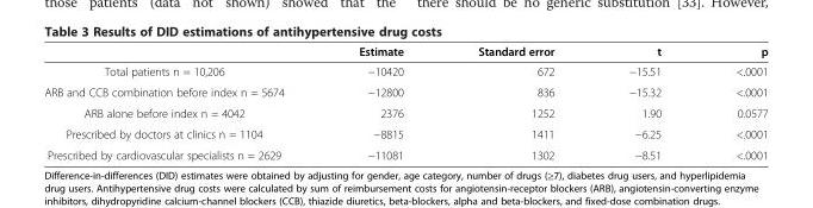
<table><thead><tr><td></td><td>Estimate</td><td>Standard error</td><td>t</td><td>p</td></tr></thead><tbody><tr><td>Total patients n = 10,206</td><td>−10420</td><td>672</td><td>−15.51</td><td>&lt;.0001</td></tr><tr><td>ARB and CCB combination before index n = 5674</td><td>−12800</td><td>836</td><td>−15.32</td><td>&lt;.0001</td></tr><tr><td>ARB alone before index n = 4042</td><td>2376</td><td>1252</td><td>1.90</td><td>0.0577</td></tr><tr><td>Prescribed by doctors at clinics n = 1104</td><td>−8815</td><td>1411</td><td>−6.25</td><td>&lt;.0001</td></tr><tr><td>Prescribed by cardiovascular specialists n = 2629</td><td>−11081</td><td>1302</td><td>−8.51</td><td>&lt;.0001</td></tr></tbody></table>